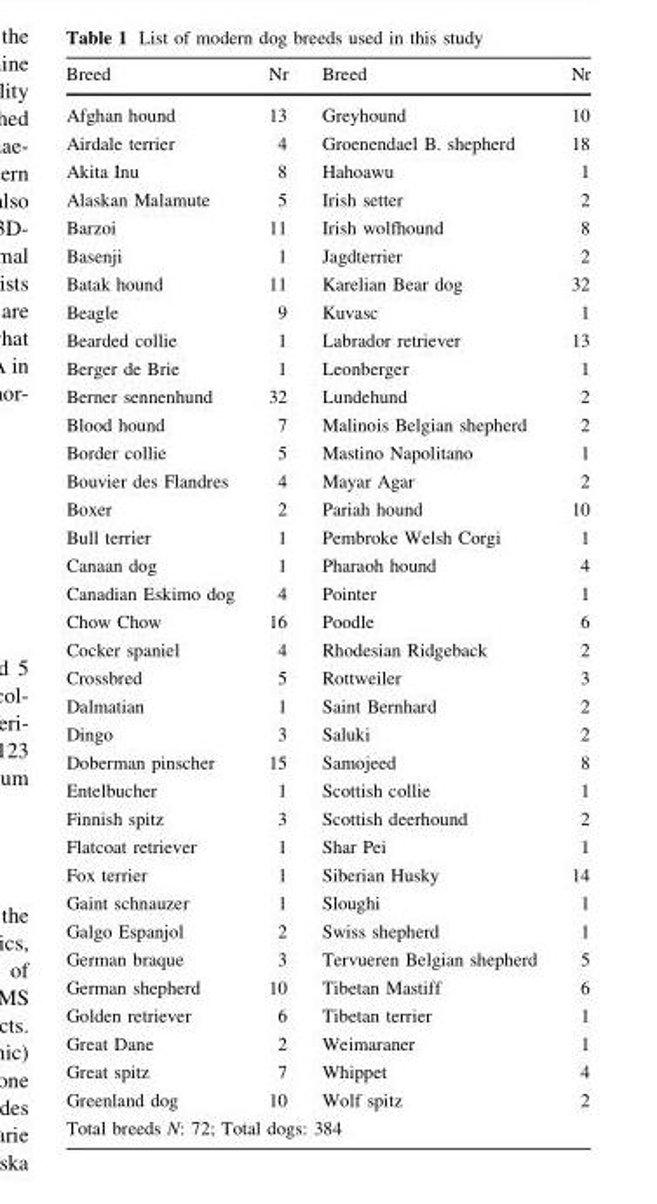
<table><thead><tr><td>Breed</td><td>Nr</td><td>Breed</td><td>Nr</td></tr></thead><tbody><tr><td>Afghan hound</td><td>13</td><td>Greyhound</td><td>10</td></tr><tr><td>Airdale terrier</td><td>4</td><td>Groenendael B. shepherd</td><td>18</td></tr><tr><td>Akita Inu</td><td>8</td><td>Hahoawu</td><td>1</td></tr><tr><td>Alaskan Malamute</td><td>5</td><td>Irish setter</td><td>2</td></tr><tr><td>Barzoi</td><td>11</td><td>Irish wolfhound</td><td>8</td></tr><tr><td>Basenji</td><td>1</td><td>Jagdterrier</td><td>2</td></tr><tr><td>Batak hound</td><td>11</td><td>Karelian Bear dog</td><td>32</td></tr><tr><td>Beagle</td><td>9</td><td>Kuvasc</td><td>1</td></tr><tr><td>Bearded collie</td><td>1</td><td>Labrador retriever</td><td>13</td></tr><tr><td>Berger de Brie</td><td>1</td><td>Leonberger</td><td>1</td></tr><tr><td>Berner sennenhund</td><td>32</td><td>Lundehund</td><td>2</td></tr><tr><td>Blood hound</td><td>7</td><td>Malinois Belgian shepherd</td><td>2</td></tr><tr><td>Border collie</td><td>5</td><td>Mastino Napolitano</td><td>1</td></tr><tr><td>Bouvier des Flandres</td><td>4</td><td>Mayar Agar</td><td>2</td></tr><tr><td>Boxer</td><td>2</td><td>Pariah hound</td><td>10</td></tr><tr><td>Bull terrier</td><td>1</td><td>Pembroke Welsh Corgi</td><td>1</td></tr><tr><td>Canaan dog</td><td>1</td><td>Pharaoh hound</td><td>4</td></tr><tr><td>Canadian Eskimo dog</td><td>4</td><td>Pointer</td><td>1</td></tr><tr><td>Chow Chow</td><td>16</td><td>Poodle</td><td>6</td></tr><tr><td>Cocker spaniel</td><td>4</td><td>Rhodesian Ridgeback</td><td>2</td></tr><tr><td>Crossbred</td><td>5</td><td>Rottweiler</td><td>3</td></tr><tr><td>Dalmatian</td><td>1</td><td>Saint Bernhard</td><td>2</td></tr><tr><td>Dingo</td><td>3</td><td>Saluki</td><td>2</td></tr><tr><td>Doberman pinscher</td><td>15</td><td>Samojeed</td><td>8</td></tr><tr><td>Entelbucher</td><td>1</td><td>Scottish collie</td><td>1</td></tr><tr><td>Finnish spitz</td><td>3</td><td>Scottish deerhound</td><td>2</td></tr><tr><td>Flatcoat retriever</td><td>1</td><td>Shar Pei</td><td>1</td></tr><tr><td>Fox terrier</td><td>1</td><td>Siberian Husky</td><td>14</td></tr><tr><td>Gaint schnauzer</td><td>1</td><td>Sloughi</td><td>1</td></tr><tr><td>Galgo Espanjol</td><td>2</td><td>Swiss shepherd</td><td>1</td></tr><tr><td>German braque</td><td>3</td><td>Tervueren Belgian shepherd</td><td>5</td></tr><tr><td>German shepherd</td><td>10</td><td>Tibetan Mastiff</td><td>6</td></tr><tr><td>Golden retriever</td><td>6</td><td>Tibetan terrier</td><td>1</td></tr><tr><td>Great Dane</td><td>2</td><td>Weimaraner</td><td>1</td></tr><tr><td>Great spitz</td><td>7</td><td>Whippet</td><td>4</td></tr><tr><td>Greenland dog</td><td>10</td><td>Wolf spitz</td><td>2</td></tr><tr><td colspan="4">Total breeds N: 72; Total dogs: 384</td></tr></tbody></table>